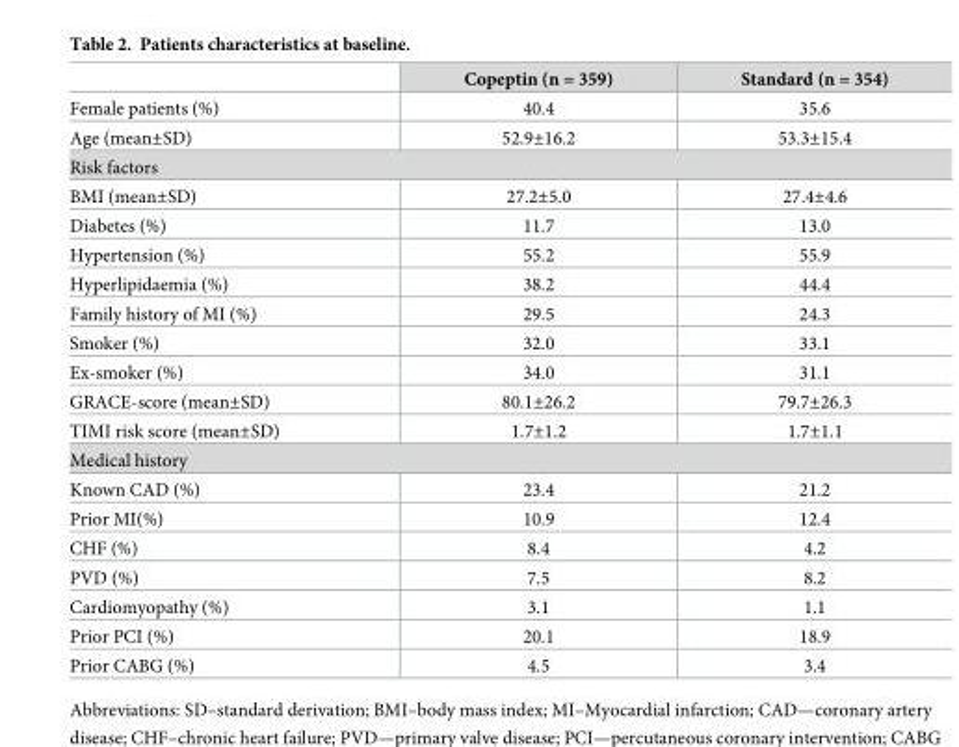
<table><thead><tr><td></td><td>Copeptin (n = 359)</td><td>Standard (n = 354)</td></tr></thead><tbody><tr><td>Female patients (%)</td><td>40.4</td><td>35.6</td></tr><tr><td>Age (mean±SD)</td><td>52.9±16.2</td><td>53.3±15.4</td></tr><tr><td colspan="3">Risk factors</td></tr><tr><td>BMI (mean±SD)</td><td>27.2±5.0</td><td>27.4±4.6</td></tr><tr><td>Diabetes (%)</td><td>11.7</td><td>13.0</td></tr><tr><td>Hypertension (%)</td><td>55.2</td><td>55.9</td></tr><tr><td>Hyperlipidaemia (%)</td><td>38.2</td><td>44.4</td></tr><tr><td>Family history of MI (%)</td><td>29.5</td><td>24.3</td></tr><tr><td>Smoker (%)</td><td>32.0</td><td>33.1</td></tr><tr><td>Ex-smoker (%)</td><td>34.0</td><td>31.1</td></tr><tr><td>GRACE-score (mean±SD)</td><td>80.1±26.2</td><td>79.7±26.3</td></tr><tr><td>TIMI risk score (mean±SD)</td><td>1.7±1.2</td><td>1.7±1.1</td></tr><tr><td colspan="3">Medical history</td></tr><tr><td>Known CAD (%)</td><td>23.4</td><td>21.2</td></tr><tr><td>Prior MI(%)</td><td>10.9</td><td>12.4</td></tr><tr><td>CHF (%)</td><td>8.4</td><td>4.2</td></tr><tr><td>PVD (%)</td><td>7.5</td><td>8.2</td></tr><tr><td>Cardiomyopathy (%)</td><td>3.1</td><td>1.1</td></tr><tr><td>Prior PCI (%)</td><td>20.1</td><td>18.9</td></tr><tr><td>Prior CABG (%)</td><td>4.5</td><td>3.4</td></tr></tbody></table>